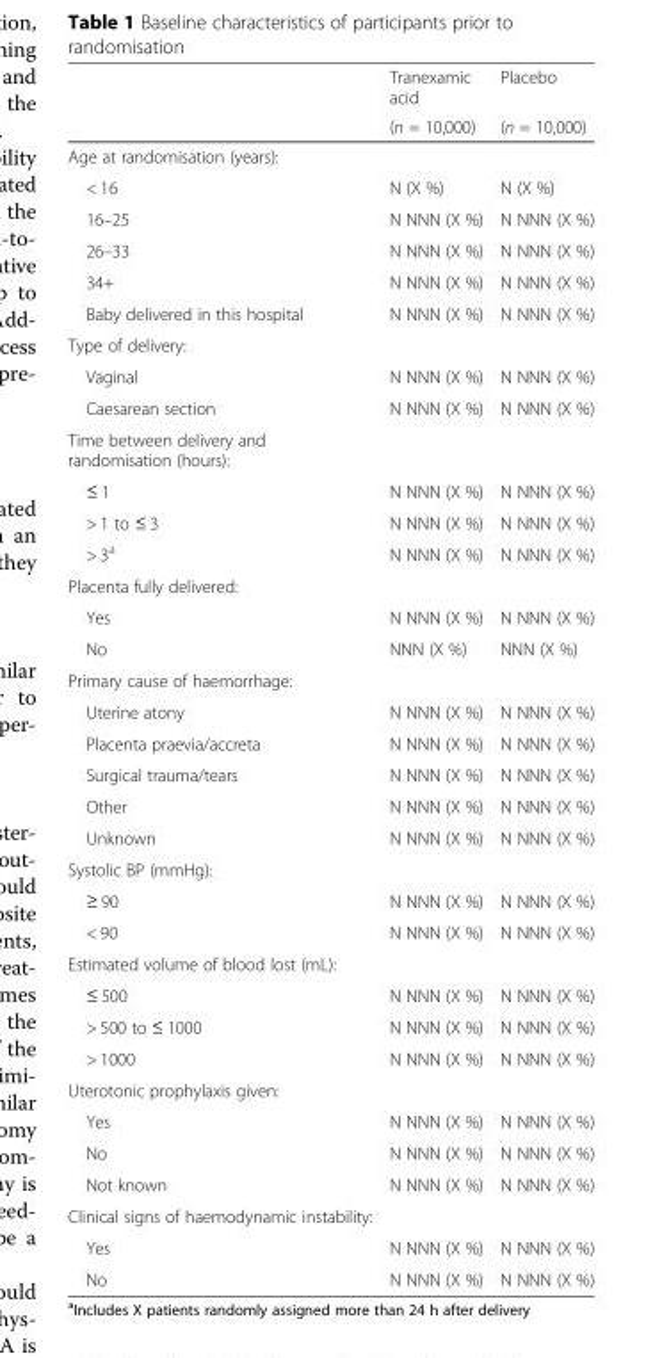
<table><thead><tr><td rowspan="2"></td><td rowspan="2">Tranexamic acid (n = 10,000)</td><td rowspan="2">Placebo (n = 10,000)</td></tr><tr></tr></thead><tbody><tr><td colspan="3">Age at randomisation (years):</td></tr><tr><td>&lt; 16</td><td>N (X %)</td><td>N (X %)</td></tr><tr><td>16–25</td><td>N NNN (X %)</td><td>N NNN (X %)</td></tr><tr><td>26–33</td><td>N NNN (X %)</td><td>N NNN (X %)</td></tr><tr><td>34+</td><td>N NNN (X %)</td><td>N NNN (X %)</td></tr><tr><td>Baby delivered in this hospital</td><td>N NNN (X %)</td><td>N NNN (X %)</td></tr><tr><td colspan="3">Type of delivery:</td></tr><tr><td>Vaginal</td><td>N NNN (X %)</td><td>N NNN (X %)</td></tr><tr><td>Caesarean section</td><td>N NNN (X %)</td><td>N NNN (X %)</td></tr><tr><td colspan="3">Time between delivery and randomisation (hours):</td></tr><tr><td>≤ 1</td><td>N NNN (X %)</td><td>N NNN (X %)</td></tr><tr><td>&gt; 1 to ≤ 3</td><td>N NNN (X %)</td><td>N NNN (X %)</td></tr><tr><td>&gt; 3<sup>a</sup></td><td>N NNN (X %)</td><td>N NNN (X %)</td></tr><tr><td colspan="3">Placenta fully delivered:</td></tr><tr><td>Yes</td><td>N NNN (X %)</td><td>N NNN (X %)</td></tr><tr><td>No</td><td>NNN (X %)</td><td>NNN (X %)</td></tr><tr><td colspan="3">Primary cause of haemorrhage:</td></tr><tr><td>Uterine atony</td><td>N NNN (X %)</td><td>N NNN (X %)</td></tr><tr><td>Placenta praevia/accreta</td><td>N NNN (X %)</td><td>N NNN (X %)</td></tr><tr><td>Surgical trauma/tears</td><td>N NNN (X %)</td><td>N NNN (X %)</td></tr><tr><td>Other</td><td>N NNN (X %)</td><td>N NNN (X %)</td></tr><tr><td>Unknown</td><td>N NNN (X %)</td><td>N NNN (X %)</td></tr><tr><td colspan="3">Systolic BP (mmHg):</td></tr><tr><td>≥ 90</td><td>N NNN (X %)</td><td>N NNN (X %)</td></tr><tr><td>&lt; 90</td><td>N NNN (X %)</td><td>N NNN (X %)</td></tr><tr><td colspan="3">Estimated volume of blood lost (mL):</td></tr><tr><td>≤ 500</td><td>N NNN (X %)</td><td>N NNN (X %)</td></tr><tr><td>&gt; 500 to ≤ 1000</td><td>N NNN (X %)</td><td>N NNN (X %)</td></tr><tr><td>&gt; 1000</td><td>N NNN (X %)</td><td>N NNN (X %)</td></tr><tr><td colspan="3">Uterotonic prophylaxis given:</td></tr><tr><td>Yes</td><td>N NNN (X %)</td><td>N NNN (X %)</td></tr><tr><td>No</td><td>N NNN (X %)</td><td>N NNN (X %)</td></tr><tr><td>Not known</td><td>N NNN (X %)</td><td>N NNN (X %)</td></tr><tr><td colspan="3">Clinical signs of haemodynamic instability:</td></tr><tr><td>Yes</td><td>N NNN (X %)</td><td>N NNN (X %)</td></tr><tr><td>No</td><td>N NNN (X %)</td><td>N NNN (X %)</td></tr></tbody></table>